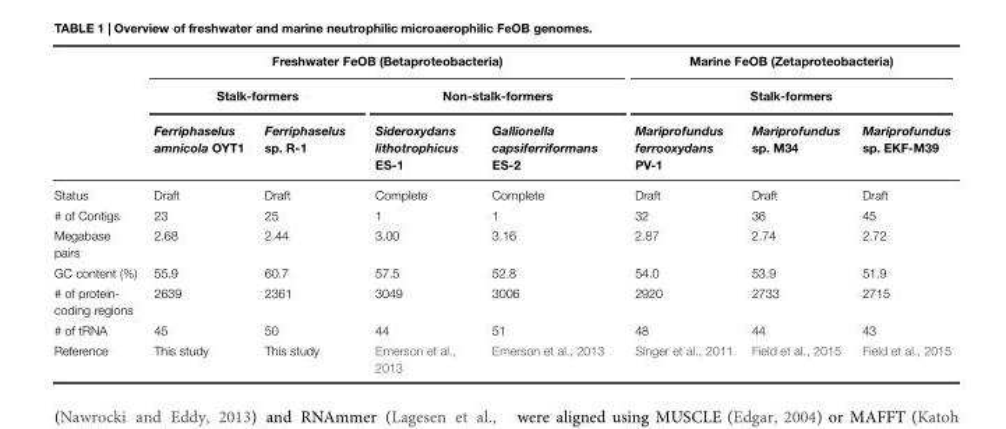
<table><thead><tr><td rowspan="3"></td><td colspan="4">Freshwater FeOB (Betaproteobacteria)</td><td rowspan="2" colspan="3">Marine FeOB (Zetaproteobacteria) Stalk-formers</td></tr><tr><td colspan="2">Stalk-formers</td><td colspan="2">Non-stalk-formers</td></tr><tr><td>Ferriphaselus amnicola OYT1</td><td>Ferriphaselus sp. R-1</td><td>Sideroxydans lithotrophicus ES-1</td><td>Gallionella capsiferriformans ES-2</td><td>Mariprofundus ferrooxydans PV-1</td><td>Mariprofundus sp. M34</td><td>Mariprofundus sp. EKF-M39</td></tr></thead><tbody><tr><td>Status</td><td>Draft</td><td>Draft</td><td>Complete</td><td>Complete</td><td>Draft</td><td>Draft</td><td>Draft</td></tr><tr><td># of Contigs</td><td>23</td><td>25</td><td>1</td><td>1</td><td>32</td><td>36</td><td>45</td></tr><tr><td>Megabase pairs</td><td>2.68</td><td>2.44</td><td>3.00</td><td>3.16</td><td>2.87</td><td>2.74</td><td>2.72</td></tr><tr><td>GC content (%)</td><td>55.9</td><td>60.7</td><td>57.5</td><td>52.8</td><td>54.0</td><td>53.9</td><td>51.9</td></tr><tr><td># of protein- coding regions</td><td>2639</td><td>2361</td><td>3049</td><td>3006</td><td>2920</td><td>2733</td><td>2715</td></tr><tr><td># of tRNA</td><td>45</td><td>50</td><td>44</td><td>51</td><td>48</td><td>44</td><td>43</td></tr><tr><td>Reference</td><td>This study</td><td>This study</td><td>Emerson et al., 2013</td><td>Emerson et al., 2013</td><td>Singer et al., 2011</td><td>Field et al., 2015</td><td>Field et al., 2015</td></tr></tbody></table>